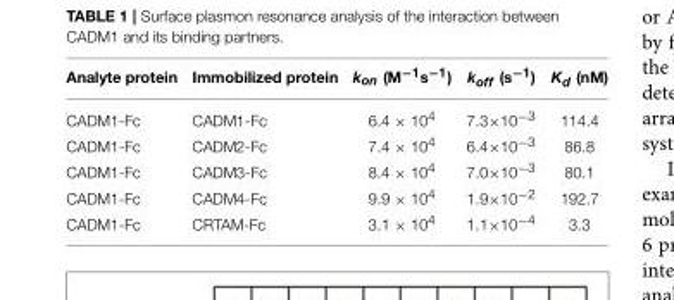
<table><thead><tr><td>Analyte protein</td><td>Immobilized protein</td><td>kon (M−1s−1)</td><td>koff (s−1)</td><td>Kd (nM)</td></tr></thead><tbody><tr><td>CADM1-Fc</td><td>CADM1-Fc</td><td>6.4 × 10<sup>4</sup></td><td>7.3×10<sup>−3</sup></td><td>114.4</td></tr><tr><td>CADM1-Fc</td><td>CADM2-Fc</td><td>7.4 × 10<sup>4</sup></td><td>6.4×10<sup>−3</sup></td><td>86.8</td></tr><tr><td>CADM1-Fc</td><td>CADM3-Fc</td><td>8.4 × 10<sup>4</sup></td><td>7.0×10<sup>−3</sup></td><td>80.1</td></tr><tr><td>CADM1-Fc</td><td>CADM4-Fc</td><td>9.9 × 10<sup>4</sup></td><td>1.9×10<sup>−2</sup></td><td>192.7</td></tr><tr><td>CADM1-Fc</td><td>CRTAM-Fc</td><td>3.1 × 10<sup>4</sup></td><td>1.1×10<sup>−4</sup></td><td>3.3</td></tr></tbody></table>